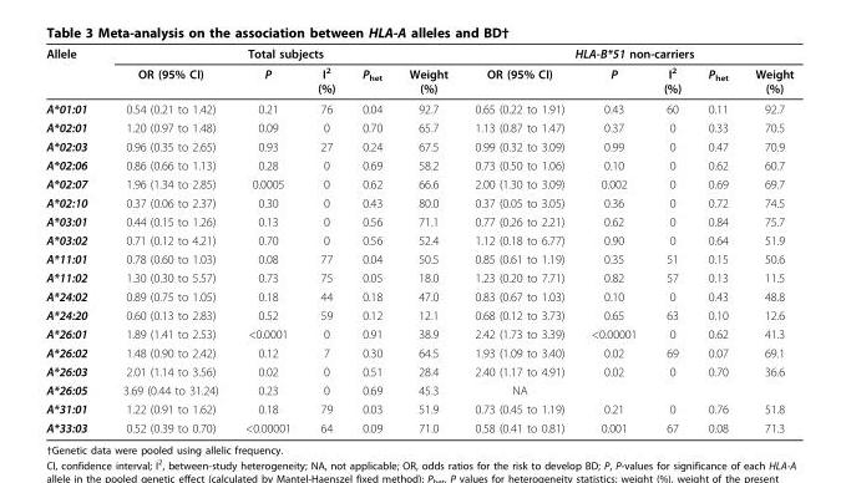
<table><thead><tr><td rowspan="2">Allele</td><td colspan="5">Total subjects</td><td colspan="5">HLA-B*51 non-carriers</td></tr><tr><td>OR (95% CI)</td><td>P</td><td>I<sup>2</sup> (%)</td><td>P<sub>het</sub></td><td>Weight (%)</td><td>OR (95% CI)</td><td>P</td><td>I<sup>2</sup> (%)</td><td>P<sub>het</sub></td><td>Weight (%)</td></tr></thead><tbody><tr><td>A*01:01</td><td>0.54 (0.21 to 1.42)</td><td>0.21</td><td>76</td><td>0.04</td><td>92.7</td><td>0.65 (0.22 to 1.91)</td><td>0.43</td><td>60</td><td>0.11</td><td>92.7</td></tr><tr><td>A*02:01</td><td>1.20 (0.97 to 1.48)</td><td>0.09</td><td>0</td><td>0.70</td><td>65.7</td><td>1.13 (0.87 to 1.47)</td><td>0.37</td><td>0</td><td>0.33</td><td>70.5</td></tr><tr><td>A*02:03</td><td>0.96 (0.35 to 2.65)</td><td>0.93</td><td>27</td><td>0.24</td><td>67.5</td><td>0.99 (0.32 to 3.09)</td><td>0.99</td><td>0</td><td>0.47</td><td>70.9</td></tr><tr><td>A*02:06</td><td>0.86 (0.66 to 1.13)</td><td>0.28</td><td>0</td><td>0.69</td><td>58.2</td><td>0.73 (0.50 to 1.06)</td><td>0.10</td><td>0</td><td>0.62</td><td>60.7</td></tr><tr><td>A*02:07</td><td>1.96 (1.34 to 2.85)</td><td>0.0005</td><td>0</td><td>0.62</td><td>66.6</td><td>2.00 (1.30 to 3.09)</td><td>0.002</td><td>0</td><td>0.69</td><td>69.7</td></tr><tr><td>A*02:10</td><td>0.37 (0.06 to 2.37)</td><td>0.30</td><td>0</td><td>0.43</td><td>80.0</td><td>0.37 (0.05 to 3.05)</td><td>0.36</td><td>0</td><td>0.72</td><td>74.5</td></tr><tr><td>A*03:01</td><td>0.44 (0.15 to 1.26)</td><td>0.13</td><td>0</td><td>0.56</td><td>71.1</td><td>0.77 (0.26 to 2.21)</td><td>0.62</td><td>0</td><td>0.84</td><td>75.7</td></tr><tr><td>A*03:02</td><td>0.71 (0.12 to 4.21)</td><td>0.70</td><td>0</td><td>0.56</td><td>52.4</td><td>1.12 (0.18 to 6.77)</td><td>0.90</td><td>0</td><td>0.64</td><td>51.9</td></tr><tr><td>A*11:01</td><td>0.78 (0.60 to 1.03)</td><td>0.08</td><td>77</td><td>0.04</td><td>50.5</td><td>0.85 (0.61 to 1.19)</td><td>0.35</td><td>51</td><td>0.15</td><td>50.6</td></tr><tr><td>A*11:02</td><td>1.30 (0.30 to 5.57)</td><td>0.73</td><td>75</td><td>0.05</td><td>18.0</td><td>1.23 (0.20 to 7.71)</td><td>0.82</td><td>57</td><td>0.13</td><td>11.5</td></tr><tr><td>A*24:02</td><td>0.89 (0.75 to 1.05)</td><td>0.18</td><td>44</td><td>0.18</td><td>47.0</td><td>0.83 (0.67 to 1.03)</td><td>0.10</td><td>0</td><td>0.43</td><td>48.8</td></tr><tr><td>A*24:20</td><td>0.60 (0.13 to 2.83)</td><td>0.52</td><td>59</td><td>0.12</td><td>12.1</td><td>0.68 (0.12 to 3.73)</td><td>0.65</td><td>63</td><td>0.10</td><td>12.6</td></tr><tr><td>A*26:01</td><td>1.89 (1.41 to 2.53)</td><td>&lt;0.0001</td><td>0</td><td>0.91</td><td>38.9</td><td>2.42 (1.73 to 3.39)</td><td>&lt;0.00001</td><td>0</td><td>0.62</td><td>41.3</td></tr><tr><td>A*26:02</td><td>1.48 (0.90 to 2.42)</td><td>0.12</td><td>7</td><td>0.30</td><td>64.5</td><td>1.93 (1.09 to 3.40)</td><td>0.02</td><td>69</td><td>0.07</td><td>69.1</td></tr><tr><td>A*26:03</td><td>2.01 (1.14 to 3.56)</td><td>0.02</td><td>0</td><td>0.51</td><td>28.4</td><td>2.40 (1.17 to 4.91)</td><td>0.02</td><td>0</td><td>0.70</td><td>36.6</td></tr><tr><td>A*26:05</td><td>3.69 (0.44 to 31.24)</td><td>0.23</td><td>0</td><td>0.69</td><td>45.3</td><td>NA</td><td></td><td></td><td></td><td></td></tr><tr><td>A*31:01</td><td>1.22 (0.91 to 1.62)</td><td>0.18</td><td>79</td><td>0.03</td><td>51.9</td><td>0.73 (0.45 to 1.19)</td><td>0.21</td><td>0</td><td>0.76</td><td>51.8</td></tr><tr><td>A*33:03</td><td>0.52 (0.39 to 0.70)</td><td>&lt;0.00001</td><td>64</td><td>0.09</td><td>71.0</td><td>0.58 (0.41 to 0.81)</td><td>0.001</td><td>67</td><td>0.08</td><td>71.3</td></tr></tbody></table>